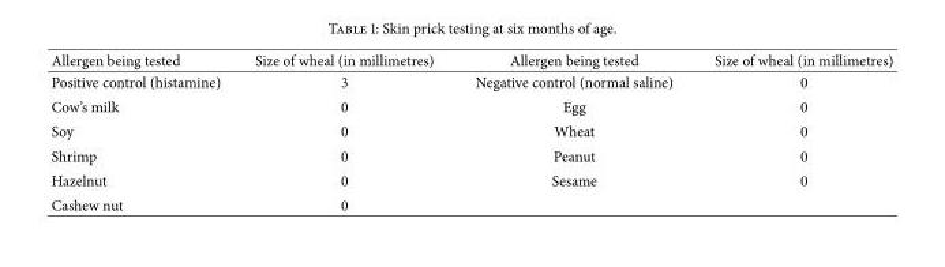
<table><thead><tr><td>Allergen being tested</td><td>Size of wheal (in millimetres)</td><td>Allergen being tested</td><td>Size of wheal (in millimetres)</td></tr></thead><tbody><tr><td>Positive control (histamine)</td><td>3</td><td>Negative control (normal saline)</td><td>0</td></tr><tr><td>Cow’s milk</td><td>0</td><td>Egg</td><td>0</td></tr><tr><td>Soy</td><td>0</td><td>Wheat</td><td>0</td></tr><tr><td>Shrimp</td><td>0</td><td>Peanut</td><td>0</td></tr><tr><td>Hazelnut</td><td>0</td><td>Sesame</td><td>0</td></tr><tr><td>Cashew nut</td><td>0</td><td></td><td></td></tr></tbody></table>